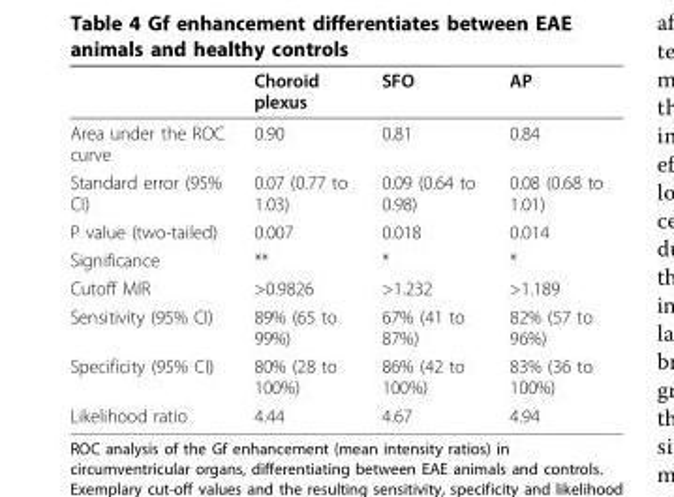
<table><thead><tr><td></td><td>Choroid plexus</td><td>SFO</td><td>AP</td></tr></thead><tbody><tr><td>Area under the ROC curve</td><td>0.90</td><td>0.81</td><td>0.84</td></tr><tr><td>Standard error (95% CI)</td><td>0.07 (0.77 to 1.03)</td><td>0.09 (0.64 to 0.98)</td><td>0.08 (0.68 to 1.01)</td></tr><tr><td>P value (two-tailed)</td><td>0.007</td><td>0.018</td><td>0.014</td></tr><tr><td>Significance</td><td>**</td><td>*</td><td>*</td></tr><tr><td>Cutoff MIR</td><td>&gt;0.9826</td><td>&gt;1.232</td><td>&gt;1.189</td></tr><tr><td>Sensitivity (95% CI)</td><td>89% (65 to 99%)</td><td>67% (41 to 87%)</td><td>82% (57 to 96%)</td></tr><tr><td>Specificity (95% CI)</td><td>80% (28 to 100%)</td><td>86% (42 to 100%)</td><td>83% (36 to 100%)</td></tr><tr><td>Likelihood ratio</td><td>4.44</td><td>4.67</td><td>4.94</td></tr></tbody></table>